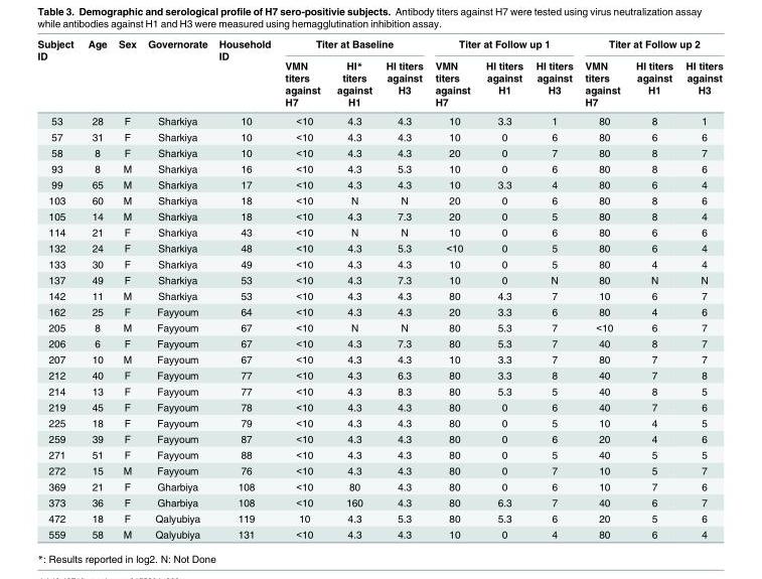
<table><thead><tr><td rowspan="2">Subject ID</td><td rowspan="2">Age</td><td rowspan="2">Sex</td><td rowspan="2">Governorate</td><td rowspan="2">Household ID</td><td colspan="3">Titer at Baseline</td><td colspan="3">Titer at Follow up 1</td><td colspan="3">Titer at Follow up 2</td></tr><tr><td>VMN titers against H7</td><td>HI* titers against H1</td><td>HI titers against H3</td><td>VMN titers against H7</td><td>HI titers against H1</td><td>HI titers against H3</td><td>VMN titers against H7</td><td>HI titers against H1</td><td>HI titers against H3</td></tr></thead><tbody><tr><td>53</td><td>28</td><td>F</td><td>Sharkiya</td><td>10</td><td>&lt;10</td><td>4.3</td><td>4.3</td><td>10</td><td>3.3</td><td>1</td><td>80</td><td>8</td><td>1</td></tr><tr><td>57</td><td>31</td><td>F</td><td>Sharkiya</td><td>10</td><td>&lt;10</td><td>4.3</td><td>4.3</td><td>10</td><td>0</td><td>6</td><td>80</td><td>6</td><td>6</td></tr><tr><td>58</td><td>8</td><td>F</td><td>Sharkiya</td><td>10</td><td>&lt;10</td><td>4.3</td><td>4.3</td><td>20</td><td>0</td><td>7</td><td>80</td><td>8</td><td>7</td></tr><tr><td>93</td><td>8</td><td>M</td><td>Sharkiya</td><td>16</td><td>&lt;10</td><td>4.3</td><td>5.3</td><td>10</td><td>0</td><td>6</td><td>80</td><td>8</td><td>6</td></tr><tr><td>99</td><td>65</td><td>M</td><td>Sharkiya</td><td>17</td><td>&lt;10</td><td>4.3</td><td>4.3</td><td>10</td><td>3.3</td><td>4</td><td>80</td><td>6</td><td>4</td></tr><tr><td>103</td><td>60</td><td>M</td><td>Sharkiya</td><td>18</td><td>&lt;10</td><td>N</td><td>N</td><td>20</td><td>0</td><td>6</td><td>80</td><td>8</td><td>6</td></tr><tr><td>105</td><td>14</td><td>M</td><td>Sharkiya</td><td>18</td><td>&lt;10</td><td>4.3</td><td>7.3</td><td>20</td><td>0</td><td>5</td><td>80</td><td>8</td><td>4</td></tr><tr><td>114</td><td>21</td><td>F</td><td>Sharkiya</td><td>43</td><td>&lt;10</td><td>N</td><td>N</td><td>10</td><td>0</td><td>6</td><td>80</td><td>6</td><td>6</td></tr><tr><td>132</td><td>24</td><td>F</td><td>Sharkiya</td><td>48</td><td>&lt;10</td><td>4.3</td><td>5.3</td><td>&lt;10</td><td>0</td><td>5</td><td>80</td><td>6</td><td>4</td></tr><tr><td>133</td><td>30</td><td>F</td><td>Sharkiya</td><td>49</td><td>&lt;10</td><td>4.3</td><td>4.3</td><td>10</td><td>0</td><td>5</td><td>80</td><td>4</td><td>4</td></tr><tr><td>137</td><td>49</td><td>F</td><td>Sharkiya</td><td>53</td><td>&lt;10</td><td>4.3</td><td>7.3</td><td>10</td><td>0</td><td>N</td><td>80</td><td>N</td><td>N</td></tr><tr><td>142</td><td>11</td><td>M</td><td>Sharkiya</td><td>53</td><td>&lt;10</td><td>4.3</td><td>4.3</td><td>80</td><td>4.3</td><td>7</td><td>10</td><td>6</td><td>7</td></tr><tr><td>162</td><td>25</td><td>F</td><td>Fayyoum</td><td>64</td><td>&lt;10</td><td>4.3</td><td>4.3</td><td>20</td><td>3.3</td><td>6</td><td>80</td><td>4</td><td>6</td></tr><tr><td>205</td><td>8</td><td>M</td><td>Fayyoum</td><td>67</td><td>&lt;10</td><td>N</td><td>N</td><td>80</td><td>5.3</td><td>7</td><td>&lt;10</td><td>6</td><td>7</td></tr><tr><td>206</td><td>6</td><td>F</td><td>Fayyoum</td><td>67</td><td>&lt;10</td><td>4.3</td><td>7.3</td><td>80</td><td>5.3</td><td>7</td><td>40</td><td>8</td><td>7</td></tr><tr><td>207</td><td>10</td><td>M</td><td>Fayyoum</td><td>67</td><td>&lt;10</td><td>4.3</td><td>4.3</td><td>10</td><td>3.3</td><td>7</td><td>80</td><td>7</td><td>7</td></tr><tr><td>212</td><td>40</td><td>F</td><td>Fayyoum</td><td>77</td><td>&lt;10</td><td>4.3</td><td>6.3</td><td>80</td><td>3.3</td><td>8</td><td>40</td><td>7</td><td>8</td></tr><tr><td>214</td><td>13</td><td>F</td><td>Fayyoum</td><td>77</td><td>&lt;10</td><td>4.3</td><td>8.3</td><td>80</td><td>5.3</td><td>5</td><td>40</td><td>8</td><td>5</td></tr><tr><td>219</td><td>45</td><td>F</td><td>Fayyoum</td><td>78</td><td>&lt;10</td><td>4.3</td><td>4.3</td><td>80</td><td>0</td><td>6</td><td>40</td><td>7</td><td>6</td></tr><tr><td>225</td><td>18</td><td>F</td><td>Fayyoum</td><td>79</td><td>&lt;10</td><td>4.3</td><td>4.3</td><td>80</td><td>0</td><td>5</td><td>10</td><td>4</td><td>5</td></tr><tr><td>259</td><td>39</td><td>F</td><td>Fayyoum</td><td>87</td><td>&lt;10</td><td>4.3</td><td>4.3</td><td>80</td><td>0</td><td>6</td><td>20</td><td>4</td><td>6</td></tr><tr><td>271</td><td>51</td><td>F</td><td>Fayyoum</td><td>88</td><td>&lt;10</td><td>4.3</td><td>4.3</td><td>80</td><td>0</td><td>5</td><td>40</td><td>5</td><td>5</td></tr><tr><td>272</td><td>15</td><td>M</td><td>Fayyoum</td><td>76</td><td>&lt;10</td><td>4.3</td><td>4.3</td><td>80</td><td>0</td><td>7</td><td>10</td><td>5</td><td>7</td></tr><tr><td>369</td><td>21</td><td>F</td><td>Gharbiya</td><td>108</td><td>&lt;10</td><td>80</td><td>4.3</td><td>80</td><td>0</td><td>6</td><td>10</td><td>7</td><td>6</td></tr><tr><td>373</td><td>36</td><td>F</td><td>Gharbiya</td><td>108</td><td>&lt;10</td><td>160</td><td>4.3</td><td>80</td><td>6.3</td><td>7</td><td>40</td><td>6</td><td>7</td></tr><tr><td>472</td><td>18</td><td>F</td><td>Qalyubiya</td><td>119</td><td>10</td><td>4.3</td><td>5.3</td><td>80</td><td>5.3</td><td>6</td><td>20</td><td>5</td><td>6</td></tr><tr><td>559</td><td>58</td><td>M</td><td>Qalyubiya</td><td>131</td><td>&lt;10</td><td>4.3</td><td>4.3</td><td>10</td><td>0</td><td>4</td><td>80</td><td>6</td><td>4</td></tr></tbody></table>